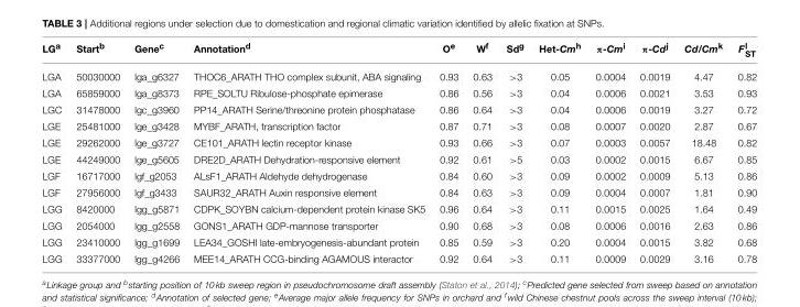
<table><thead><tr><td>LG<sup>a</sup></td><td>Start<sup>b</sup></td><td>Gene<sup>c</sup></td><td>Annotation<sup>d</sup></td><td>O<sup>e</sup></td><td>W<sup>f</sup></td><td>Sd<sup>g</sup></td><td>Het-Cm<sup>h</sup></td><td>π-Cm<sup>i</sup></td><td>π-Cd<sup>j</sup></td><td>Cd/Cm<sup>k</sup></td><td>Fl ST</td></tr></thead><tbody><tr><td>LGA</td><td>50030000</td><td>lga_g6327</td><td>THOC6_ARATH THO complex subunit, ABA signaling</td><td>0.93</td><td>0.63</td><td>&gt;3</td><td>0.05</td><td>0.0004</td><td>0.0019</td><td>4.47</td><td>0.82</td></tr><tr><td>LGA</td><td>65859000</td><td>lga_g8373</td><td>RPE_SOLTU Ribulose-phosphate epimerase</td><td>0.86</td><td>0.56</td><td>&gt;3</td><td>0.04</td><td>0.0006</td><td>0.0021</td><td>3.53</td><td>0.93</td></tr><tr><td>LGC</td><td>31478000</td><td>lgc_g3960</td><td>PP14_ARATH Serine/threonine protein phosphatase</td><td>0.86</td><td>0.64</td><td>&gt;3</td><td>0.04</td><td>0.0006</td><td>0.0019</td><td>3.27</td><td>0.72</td></tr><tr><td>LGE</td><td>25481000</td><td>lge_g3428</td><td>MYBF_ARATH, transcription factor</td><td>0.87</td><td>0.71</td><td>&gt;3</td><td>0.08</td><td>0.0007</td><td>0.0020</td><td>2.87</td><td>0.67</td></tr><tr><td>LGE</td><td>29262000</td><td>lge_g3727</td><td>CE101_ARATH lectin receptor kinase</td><td>0.93</td><td>0.66</td><td>&gt;3</td><td>0.07</td><td>0.0003</td><td>0.0057</td><td>18.48</td><td>0.82</td></tr><tr><td>LGE</td><td>44249000</td><td>lge_g5605</td><td>DRE2D_ARATH Dehydration-responsive element</td><td>0.92</td><td>0.61</td><td>&gt;5</td><td>0.03</td><td>0.0002</td><td>0.0015</td><td>6.67</td><td>0.85</td></tr><tr><td>LGF</td><td>16717000</td><td>lgf_g2053</td><td>ALsF1_ARATH Aldehyde dehydrogenase</td><td>0.84</td><td>0.60</td><td>&gt;3</td><td>0.09</td><td>0.0002</td><td>0.0009</td><td>5.13</td><td>0.86</td></tr><tr><td>LGF</td><td>27956000</td><td>lgf_g3433</td><td>SAUR32_ARATH Auxin responsive element</td><td>0.84</td><td>0.63</td><td>&gt;3</td><td>0.09</td><td>0.0004</td><td>0.0007</td><td>1.81</td><td>0.90</td></tr><tr><td>LGG</td><td>8420000</td><td>lgg_g5871</td><td>CDPK_SOYBN calcium-dependent protein kinase SK5</td><td>0.96</td><td>0.64</td><td>&gt;3</td><td>0.11</td><td>0.0015</td><td>0.0025</td><td>1.64</td><td>0.49</td></tr><tr><td>LGG</td><td>2054000</td><td>lgg_g2558</td><td>GONS1_ARATH GDP-mannose transporter</td><td>0.90</td><td>0.68</td><td>&gt;3</td><td>0.08</td><td>0.0006</td><td>0.0016</td><td>2.63</td><td>0.86</td></tr><tr><td>LGG</td><td>23410000</td><td>lgg_g1699</td><td>LEA34_GOSHI late-embryogenesis-abundant protein</td><td>0.85</td><td>0.59</td><td>&gt;3</td><td>0.20</td><td>0.0004</td><td>0.0015</td><td>3.82</td><td>0.68</td></tr><tr><td>LGG</td><td>33377000</td><td>lgg_g4266</td><td>MEE14_ARATH CCG-binding AGAMOUS interactor</td><td>0.92</td><td>0.64</td><td>&gt;3</td><td>0.11</td><td>0.0009</td><td>0.0029</td><td>3.16</td><td>0.78</td></tr></tbody></table>